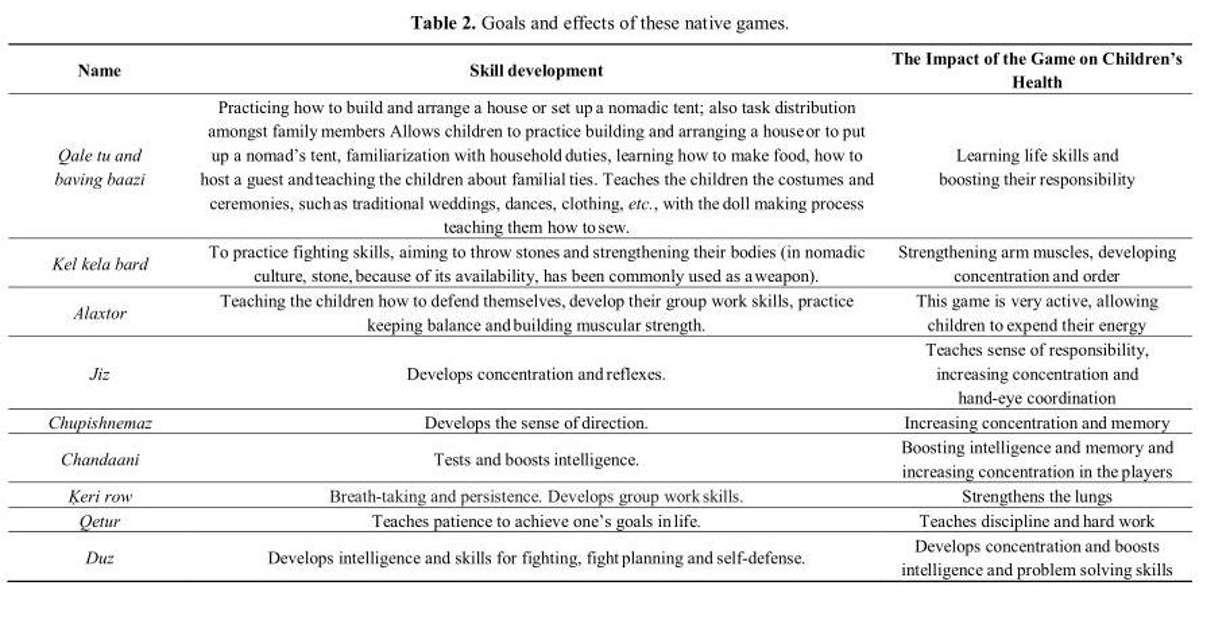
<table><thead><tr><td>Name</td><td>Skill development</td><td>The Impact of the Game on Children’s Health</td></tr></thead><tbody><tr><td>Qale tu and baving baazi</td><td>Practicing how to build and arrange a house or set up a nomadic tent; also task distribution amongst family members Allows children to practice building and arranging a house or to put up a nomad’s tent, familiarization with household duties, learning how to make food, how to host a guest and teaching the children about familial ties. Teaches the children the costumes and ceremonies, such as traditional weddings, dances, clothing, etc., with the doll making process teaching them how to sew.</td><td>Learning life skills and boosting their responsibility</td></tr><tr><td>Kel kela bard</td><td>To practice fighting skills, aiming to throw stones and strengthening their bodies (in nomadic culture, stone, because of its availability, has been commonly used as a weapon).</td><td>Strengthening arm muscles, developing concentration and order</td></tr><tr><td>Alaxtor</td><td>Teaching the children how to defend themselves, develop their group work skills, practice keeping balance and building muscular strength.</td><td>This game is very active, allowing children to expend their energy</td></tr><tr><td>Jiz</td><td>Develops concentration and reflexes.</td><td>Teaches sense of responsibility, increasing concentration and hand-eye coordination</td></tr><tr><td>Chupishnemaz</td><td>Develops the sense of direction.</td><td>Increasing concentration and memory</td></tr><tr><td>Chandaani</td><td>Tests and boosts intelligence.</td><td>Boosting intelligence and memory and increasing concentration in the players</td></tr><tr><td>Ḳeri row</td><td>Breath-taking and persistence. Develops group work skills.</td><td>Strengthens the lungs</td></tr><tr><td>Qetur</td><td>Teaches patience to achieve one’s goals in life.</td><td>Teaches discipline and hard work</td></tr><tr><td>Duz</td><td>Develops intelligence and skills for fighting, fight planning and self-defense.</td><td>Develops concentration and boosts intelligence and problem solving skills</td></tr></tbody></table>